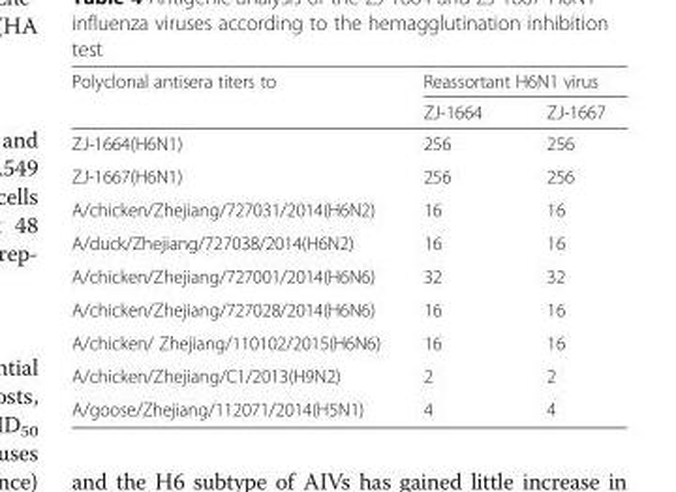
<table><thead><tr><td rowspan="2">Polyclonal antisera titers to</td><td colspan="2">Reassortant H6N1 virus</td></tr><tr><td>ZJ-1664</td><td>ZJ-1667</td></tr></thead><tbody><tr><td>ZJ-1664(H6N1)</td><td>256</td><td>256</td></tr><tr><td>ZJ-1667(H6N1)</td><td>256</td><td>256</td></tr><tr><td>A/chicken/Zhejiang/727031/2014(H6N2)</td><td>16</td><td>16</td></tr><tr><td>A/duck/Zhejiang/727038/2014(H6N2)</td><td>16</td><td>16</td></tr><tr><td>A/chicken/Zhejiang/727001/2014(H6N6)</td><td>32</td><td>32</td></tr><tr><td>A/chicken/Zhejiang/727028/2014(H6N6)</td><td>16</td><td>16</td></tr><tr><td>A/chicken/ Zhejiang/110102/2015(H6N6)</td><td>16</td><td>16</td></tr><tr><td>A/chicken/Zhejiang/C1/2013(H9N2)</td><td>2</td><td>2</td></tr><tr><td>A/goose/Zhejiang/112071/2014(H5N1)</td><td>4</td><td>4</td></tr></tbody></table>